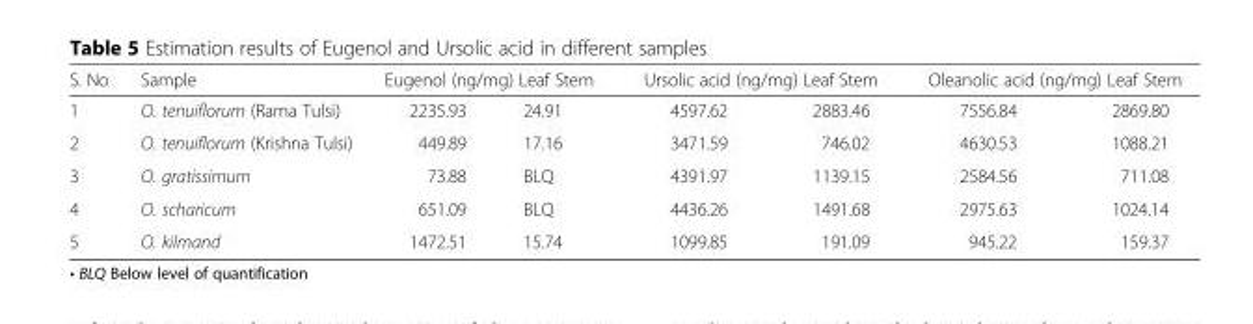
<table><thead><tr><td rowspan="2">S. No 1</td><td rowspan="2">Sample O. tenuiflorum (Rama Tulsi)</td><td colspan="2">Eugenol (ng/mg) Leaf Stem</td><td colspan="2">Ursolic acid (ng/mg) Leaf Stem</td><td colspan="2">Oleanolic acid (ng/mg) Leaf Stem</td></tr><tr><td>2235.93</td><td>24.91</td><td>4597.62</td><td>2883.46</td><td>7556.84</td><td>2869.80</td></tr></thead><tbody><tr><td>2</td><td>O. tenuiflorum (Krishna Tulsi)</td><td>449.89</td><td>17.16</td><td>3471.59</td><td>746.02</td><td>4630.53</td><td>1088.21</td></tr><tr><td>3</td><td>O. gratissimum</td><td>73.88</td><td>BLQ</td><td>4391.97</td><td>1139.15</td><td>2584.56</td><td>711.08</td></tr><tr><td>4</td><td>O. scharicum</td><td>651.09</td><td>BLQ</td><td>4436.26</td><td>1491.68</td><td>2975.63</td><td>1024.14</td></tr><tr><td>5</td><td>O. kilmand</td><td>1472.51</td><td>15.74</td><td>1099.85</td><td>191.09</td><td>945.22</td><td>159.37</td></tr></tbody></table>